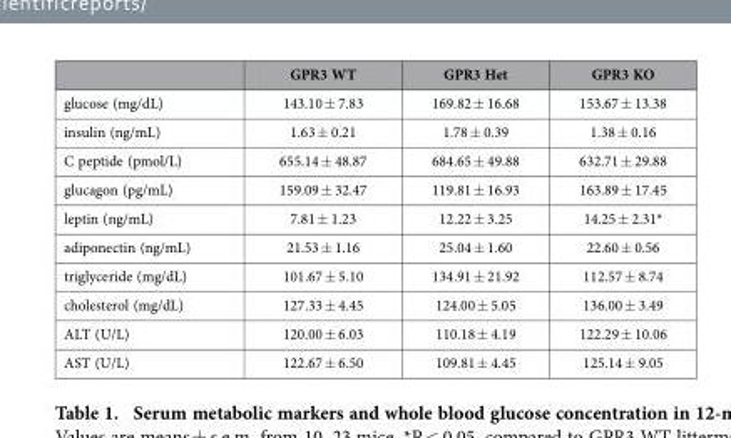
<table><thead><tr><td></td><td>GPR3 WT</td><td>GPR3 Het</td><td>GPR3 KO</td></tr></thead><tbody><tr><td>glucose (mg/dL)</td><td>143.10 ± 7.83</td><td>169.82 ± 16.68</td><td>153.67 ± 13.38</td></tr><tr><td>insulin (ng/mL)</td><td>1.63 ± 0.21</td><td>1.78 ± 0.39</td><td>1.38 ± 0.16</td></tr><tr><td>C peptide (pmol/L)</td><td>655.14 ± 48.87</td><td>684.65 ± 49.88</td><td>632.71 ± 29.88</td></tr><tr><td>glucagon (pg/mL)</td><td>159.09 ± 32.47</td><td>119.81 ± 16.93</td><td>163.89 ± 17.45</td></tr><tr><td>leptin (ng/mL)</td><td>7.81 ± 1.23</td><td>12.22 ± 3.25</td><td>14.25 ± 2.31*</td></tr><tr><td>adiponectin (ng/mL)</td><td>21.53 ± 1.16</td><td>25.04 ± 1.60</td><td>22.60 ± 0.56</td></tr><tr><td>triglyceride (mg/dL)</td><td>101.67 ± 5.10</td><td>134.91 ± 21.92</td><td>112.57 ± 8.74</td></tr><tr><td>cholesterol (mg/dL)</td><td>127.33 ± 4.45</td><td>124.00 ± 5.05</td><td>136.00 ± 3.49</td></tr><tr><td>ALT (U/L)</td><td>120.00 ± 6.03</td><td>110.18 ± 4.19</td><td>122.29 ± 10.06</td></tr><tr><td>AST (U/L)</td><td>122.67 ± 6.50</td><td>109.81 ± 4.45</td><td>125.14 ± 9.05</td></tr></tbody></table>